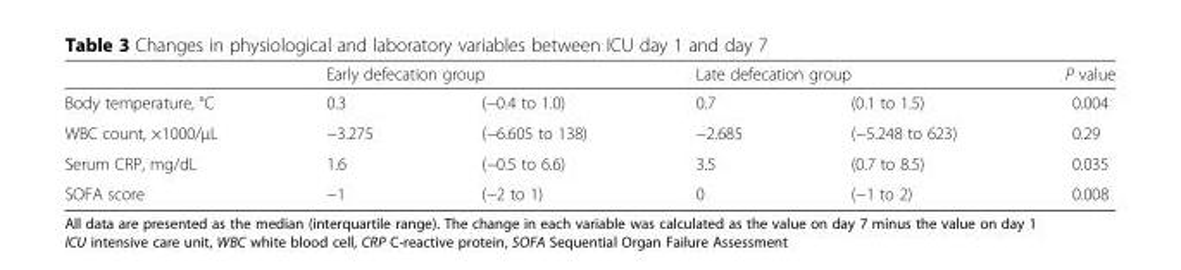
<table><thead><tr><td rowspan="2">Body temperature, °C</td><td colspan="2">Early defecation group</td><td colspan="2">Late defecation group</td><td rowspan="2">P value 0.004</td></tr><tr><td>0.3</td><td>(−0.4 to 1.0)</td><td>0.7</td><td>(0.1 to 1.5)</td></tr></thead><tbody><tr><td>WBC count, ×1000/μL</td><td>−3.275</td><td>(−6.605 to 138)</td><td>−2.685</td><td>(−5.248 to 623)</td><td>0.29</td></tr><tr><td>Serum CRP, mg/dL</td><td>1.6</td><td>(−0.5 to 6.6)</td><td>3.5</td><td>(0.7 to 8.5)</td><td>0.035</td></tr><tr><td>SOFA score</td><td>−1</td><td>(−2 to 1)</td><td>0</td><td>(−1 to 2)</td><td>0.008</td></tr></tbody></table>